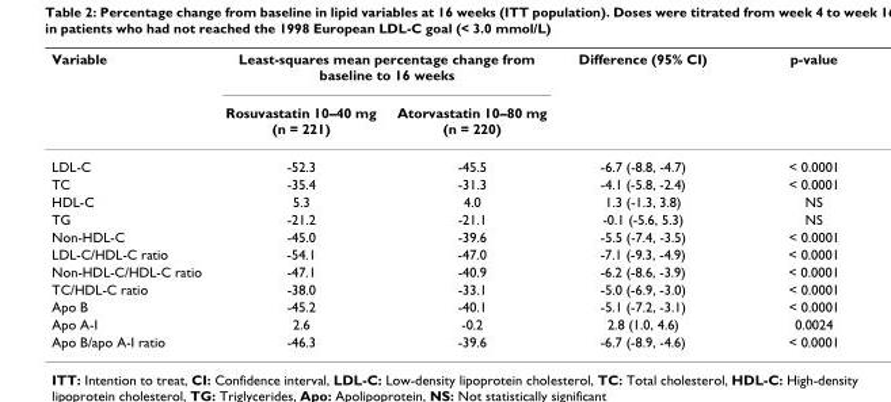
<table><thead><tr><td rowspan="2">Variable</td><td colspan="2">Least-squares mean percentage change from baseline to 16 weeks</td><td rowspan="2">Difference (95% CI)</td><td rowspan="2">p-value</td></tr><tr><td>Rosuvastatin 10–40 mg (n = 221)</td><td>Atorvastatin 10–80 mg (n = 220)</td></tr></thead><tbody><tr><td>LDL-C</td><td>-52.3</td><td>-45.5</td><td>-6.7 (-8.8, -4.7)</td><td>&lt; 0.0001</td></tr><tr><td>TC</td><td>-35.4</td><td>-31.3</td><td>-4.1 (-5.8, -2.4)</td><td>&lt; 0.0001</td></tr><tr><td>HDL-C</td><td>5.3</td><td>4.0</td><td>1.3 (-1.3, 3.8)</td><td>NS</td></tr><tr><td>TG</td><td>-21.2</td><td>-21.1</td><td>-0.1 (-5.6, 5.3)</td><td>NS</td></tr><tr><td>Non-HDL-C</td><td>-45.0</td><td>-39.6</td><td>-5.5 (-7.4, -3.5)</td><td>&lt; 0.0001</td></tr><tr><td>LDL-C/HDL-C ratio</td><td>-54.1</td><td>-47.0</td><td>-7.1 (-9.3, -4.9)</td><td>&lt; 0.0001</td></tr><tr><td>Non-HDL-C/HDL-C ratio</td><td>-47.1</td><td>-40.9</td><td>-6.2 (-8.6, -3.9)</td><td>&lt; 0.0001</td></tr><tr><td>TC/HDL-C ratio</td><td>-38.0</td><td>-33.1</td><td>-5.0 (-6.9, -3.0)</td><td>&lt; 0.0001</td></tr><tr><td>Apo B</td><td>-45.2</td><td>-40.1</td><td>-5.1 (-7.2, -3.1)</td><td>&lt; 0.0001</td></tr><tr><td>Apo A-I</td><td>2.6</td><td>-0.2</td><td>2.8 (1.0, 4.6)</td><td>0.0024</td></tr><tr><td>Apo B/apo A-I ratio</td><td>-46.3</td><td>-39.6</td><td>-6.7 (-8.9, -4.6)</td><td>&lt; 0.0001</td></tr></tbody></table>